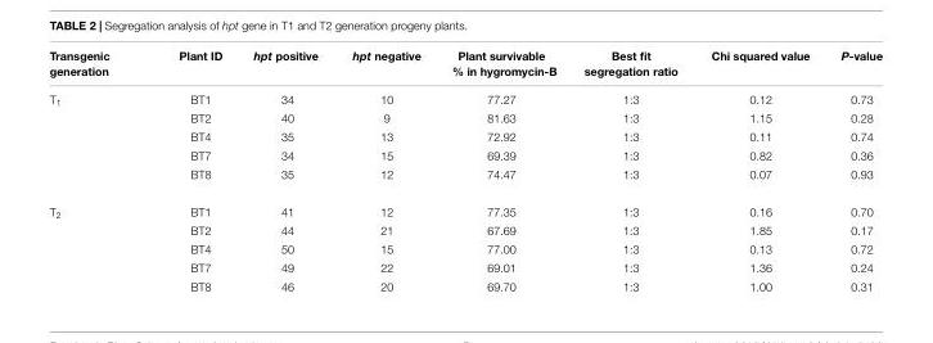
<table><thead><tr><td>Transgenic generation</td><td>Plant ID</td><td>hpt positive</td><td>hpt negative</td><td>Plant survivable % in hygromycin-B</td><td>Best fit segregation ratio</td><td>Chi squared value</td><td>P-value</td></tr></thead><tbody><tr><td rowspan="5">T<sub>1</sub></td><td>BT1</td><td>34</td><td>10</td><td>77.27</td><td>1:3</td><td>0.12</td><td>0.73</td></tr><tr><td>BT2</td><td>40</td><td>9</td><td>81.63</td><td>1:3</td><td>1.15</td><td>0.28</td></tr><tr><td>BT4</td><td>35</td><td>13</td><td>72.92</td><td>1:3</td><td>0.11</td><td>0.74</td></tr><tr><td>BT7</td><td>34</td><td>15</td><td>69.39</td><td>1:3</td><td>0.82</td><td>0.36</td></tr><tr><td>BT8</td><td>35</td><td>12</td><td>74.47</td><td>1:3</td><td>0.07</td><td>0.93</td></tr><tr><td rowspan="5">T<sub>2</sub></td><td>BT1</td><td>41</td><td>12</td><td>77.35</td><td>1:3</td><td>0.16</td><td>0.70</td></tr><tr><td>BT2</td><td>44</td><td>21</td><td>67.69</td><td>1:3</td><td>1.85</td><td>0.17</td></tr><tr><td>BT4</td><td>50</td><td>15</td><td>77.00</td><td>1:3</td><td>0.13</td><td>0.72</td></tr><tr><td>BT7</td><td>49</td><td>22</td><td>69.01</td><td>1:3</td><td>1.36</td><td>0.24</td></tr><tr><td>BT8</td><td>46</td><td>20</td><td>69.70</td><td>1:3</td><td>1.00</td><td>0.31</td></tr></tbody></table>